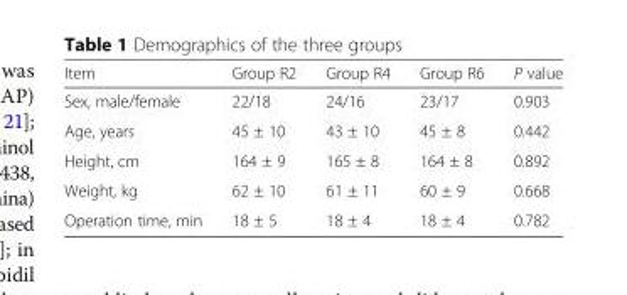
<table><thead><tr><td>Item</td><td>Group R2</td><td>Group R4</td><td>Group R6</td><td>P value</td></tr></thead><tbody><tr><td>Sex, male/female</td><td>22/18</td><td>24/16</td><td>23/17</td><td>0.903</td></tr><tr><td>Age, years</td><td>45 ± 10</td><td>43 ± 10</td><td>45 ± 8</td><td>0.442</td></tr><tr><td>Height, cm</td><td>164 ± 9</td><td>165 ± 8</td><td>164 ± 8</td><td>0.892</td></tr><tr><td>Weight, kg</td><td>62 ± 10</td><td>61 ± 11</td><td>60 ± 9</td><td>0.668</td></tr><tr><td>Operation time, min</td><td>18 ± 5</td><td>18 ± 4</td><td>18 ± 4</td><td>0.782</td></tr></tbody></table>